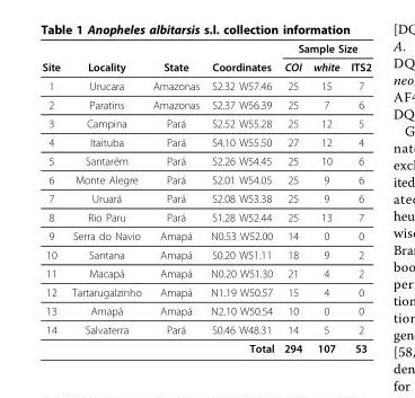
<table><thead><tr><td rowspan="2">Site</td><td rowspan="2">Locality</td><td rowspan="2">State</td><td rowspan="2">Coordinates</td><td colspan="3">Sample Size</td></tr><tr><td>COI</td><td>white</td><td>ITS2</td></tr></thead><tbody><tr><td>1</td><td>Urucara</td><td>Amazonas</td><td>S2.32 W57.46</td><td>25</td><td>15</td><td>7</td></tr><tr><td>2</td><td>Paratins</td><td>Amazonas</td><td>S2.37 W56.39</td><td>25</td><td>7</td><td>6</td></tr><tr><td>3</td><td>Campina</td><td>Pará</td><td>S2.52 W55.28</td><td>25</td><td>12</td><td>5</td></tr><tr><td>4</td><td>Itaituba</td><td>Pará</td><td>S4.10 W55.50</td><td>27</td><td>12</td><td>4</td></tr><tr><td>5</td><td>Santarém</td><td>Pará</td><td>S2.26 W54.45</td><td>25</td><td>10</td><td>6</td></tr><tr><td>6</td><td>Monte Alegre</td><td>Pará</td><td>S2.01 W54.05</td><td>25</td><td>9</td><td>6</td></tr><tr><td>7</td><td>Uruará</td><td>Pará</td><td>S2.08 W53.38</td><td>25</td><td>9</td><td>6</td></tr><tr><td>8</td><td>Rio Paru</td><td>Pará</td><td>S1.28 W52.44</td><td>25</td><td>13</td><td>7</td></tr><tr><td>9</td><td>Serra do Navio</td><td>Amapá</td><td>N0.53 W52.00</td><td>14</td><td>0</td><td>0</td></tr><tr><td>10</td><td>Santana</td><td>Amapá</td><td>S0.20 W51.11</td><td>18</td><td>9</td><td>2</td></tr><tr><td>11</td><td>Macapá</td><td>Amapá</td><td>N0.20 W51.30</td><td>21</td><td>4</td><td>2</td></tr><tr><td>12</td><td>Tartarugalzinho</td><td>Amapá</td><td>N1.19 W50.57</td><td>15</td><td>4</td><td>0</td></tr><tr><td>13</td><td>Amapá</td><td>Amapá</td><td>N2.10 W50.54</td><td>10</td><td>0</td><td>0</td></tr><tr><td>14</td><td>Salvaterra</td><td>Pará</td><td>S0.46 W48.31</td><td>14</td><td>5</td><td>2</td></tr><tr><td colspan="4">Total</td><td>294</td><td>107</td><td>53</td></tr></tbody></table>